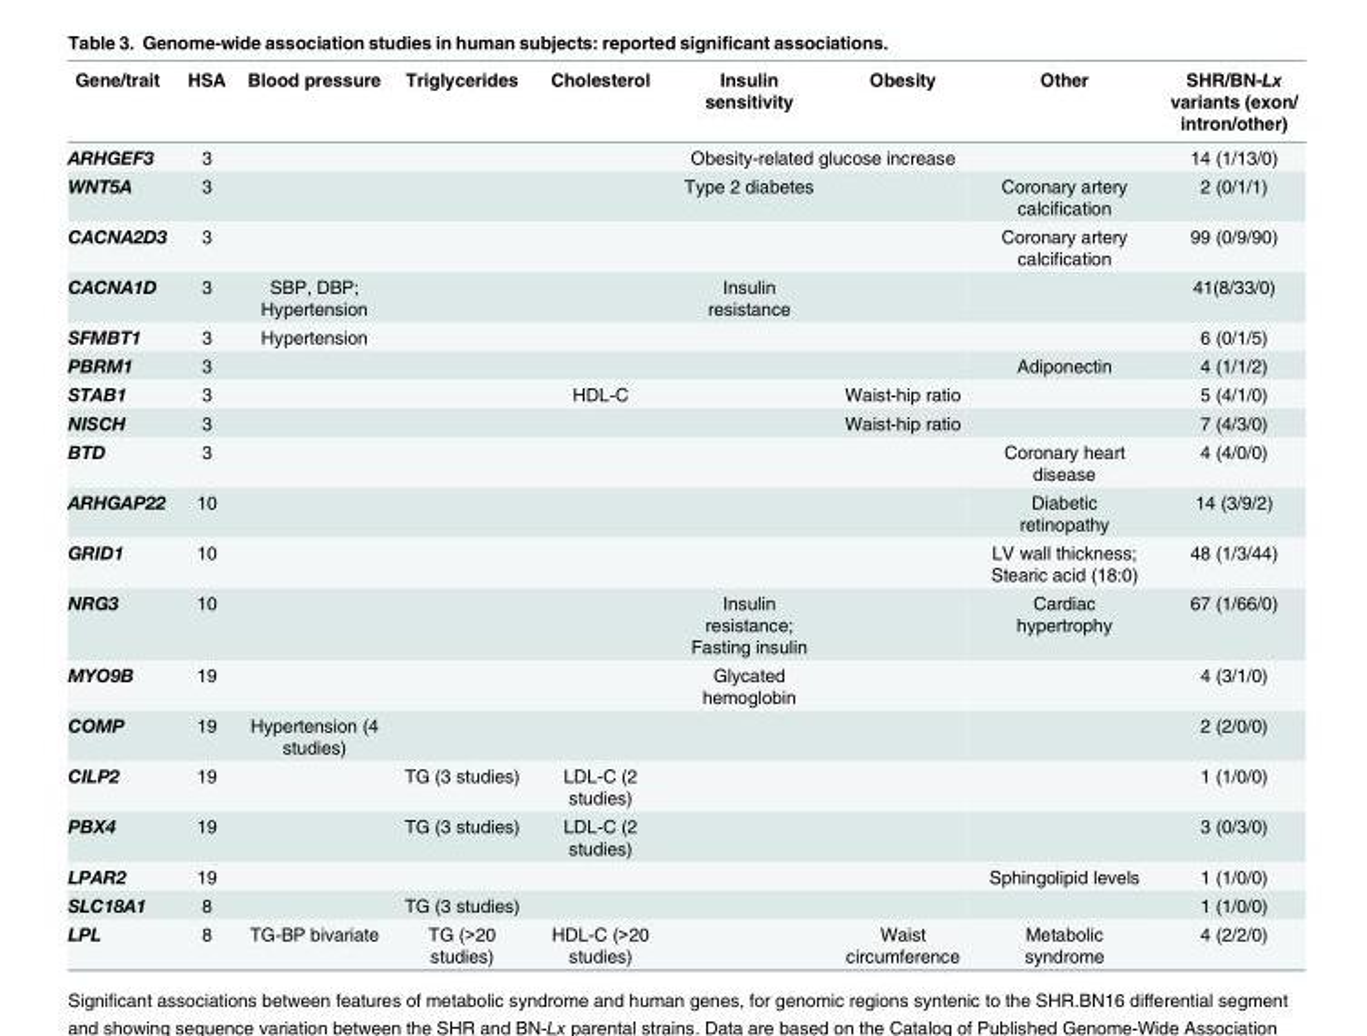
<table><thead><tr><td>Gene/trait</td><td>HSA</td><td>Blood pressure</td><td>Triglycerides</td><td>Cholesterol</td><td>Insulin sensitivity</td><td>Obesity</td><td>Other</td><td>SHR/BN-Lx variants (exon/ intron/other)</td></tr></thead><tbody><tr><td>ARHGEF3</td><td>3</td><td></td><td></td><td></td><td colspan="2">Obesity-related glucose increase</td><td></td><td>14 (1/13/0)</td></tr><tr><td>WNT5A</td><td>3</td><td></td><td></td><td></td><td>Type 2 diabetes</td><td></td><td>Coronary artery calcification</td><td>2 (0/1/1)</td></tr><tr><td>CACNA2D3</td><td>3</td><td></td><td></td><td></td><td></td><td></td><td>Coronary artery calcification</td><td>99 (0/9/90)</td></tr><tr><td>CACNA1D</td><td>3</td><td>SBP, DBP; Hypertension</td><td></td><td></td><td>Insulin resistance</td><td></td><td></td><td>41(8/33/0)</td></tr><tr><td>SFMBT1</td><td>3</td><td>Hypertension</td><td></td><td></td><td></td><td></td><td></td><td>6 (0/1/5)</td></tr><tr><td>PBRM1</td><td>3</td><td></td><td></td><td></td><td></td><td></td><td>Adiponectin</td><td>4 (1/1/2)</td></tr><tr><td>STAB1</td><td>3</td><td></td><td></td><td>HDL-C</td><td></td><td>Waist-hip ratio</td><td></td><td>5 (4/1/0)</td></tr><tr><td>NISCH</td><td>3</td><td></td><td></td><td></td><td></td><td>Waist-hip ratio</td><td></td><td>7 (4/3/0)</td></tr><tr><td>BTD</td><td>3</td><td></td><td></td><td></td><td></td><td></td><td>Coronary heart disease</td><td>4 (4/0/0)</td></tr><tr><td>ARHGAP22</td><td>10</td><td></td><td></td><td></td><td></td><td></td><td>Diabetic retinopathy</td><td>14 (3/9/2)</td></tr><tr><td>GRID1</td><td>10</td><td></td><td></td><td></td><td></td><td></td><td>LV wall thickness; Stearic acid (18:0)</td><td>48 (1/3/44)</td></tr><tr><td>NRG3</td><td>10</td><td></td><td></td><td></td><td>Insulin resistance; Fasting insulin</td><td></td><td>Cardiac hypertrophy</td><td>67 (1/66/0)</td></tr><tr><td>MYO9B</td><td>19</td><td></td><td></td><td></td><td>Glycated hemoglobin</td><td></td><td></td><td>4 (3/1/0)</td></tr><tr><td>COMP</td><td>19</td><td>Hypertension (4 studies)</td><td></td><td></td><td></td><td></td><td></td><td>2 (2/0/0)</td></tr><tr><td>CILP2</td><td>19</td><td></td><td>TG (3 studies)</td><td>LDL-C (2 studies)</td><td></td><td></td><td></td><td>1 (1/0/0)</td></tr><tr><td>PBX4</td><td>19</td><td></td><td>TG (3 studies)</td><td>LDL-C (2 studies)</td><td></td><td></td><td></td><td>3 (0/3/0)</td></tr><tr><td>LPAR2</td><td>19</td><td></td><td></td><td></td><td></td><td></td><td>Sphingolipid levels</td><td>1 (1/0/0)</td></tr><tr><td>SLC18A1</td><td>8</td><td></td><td>TG (3 studies)</td><td></td><td></td><td></td><td></td><td>1 (1/0/0)</td></tr><tr><td>LPL</td><td>8</td><td>TG-BP bivariate</td><td>TG (&gt;20 studies)</td><td>HDL-C (&gt;20 studies)</td><td></td><td>Waist circumference</td><td>Metabolic syndrome</td><td>4 (2/2/0)</td></tr></tbody></table>